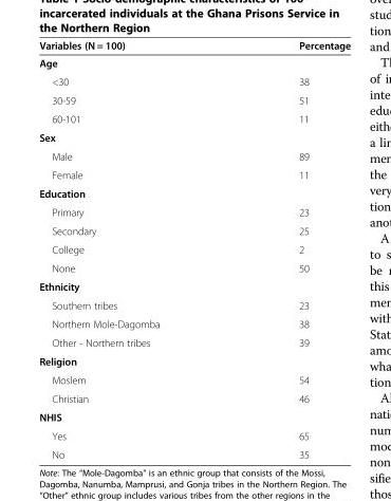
<table><thead><tr><td>Variables (N = 100)</td><td>Percentage</td></tr></thead><tbody><tr><td colspan="2">Age</td></tr><tr><td>&lt;30</td><td>38</td></tr><tr><td>30-59</td><td>51</td></tr><tr><td>60-101</td><td>11</td></tr><tr><td colspan="2">Sex</td></tr><tr><td>Male</td><td>89</td></tr><tr><td>Female</td><td>11</td></tr><tr><td colspan="2">Education</td></tr><tr><td>Primary</td><td>23</td></tr><tr><td>Secondary</td><td>25</td></tr><tr><td>College</td><td>2</td></tr><tr><td>None</td><td>50</td></tr><tr><td colspan="2">Ethnicity</td></tr><tr><td>Southern tribes</td><td>23</td></tr><tr><td>Northern Mole-Dagomba</td><td>38</td></tr><tr><td>Other - Northern tribes</td><td>39</td></tr><tr><td colspan="2">Religion</td></tr><tr><td>Moslem</td><td>54</td></tr><tr><td>Christian</td><td>46</td></tr><tr><td colspan="2">NHIS</td></tr><tr><td>Yes</td><td>65</td></tr><tr><td>No</td><td>35</td></tr></tbody></table>